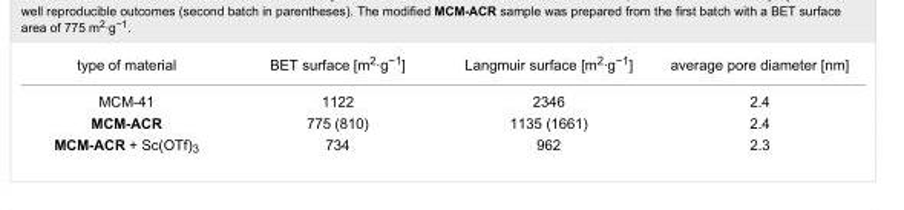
<table><tbody><tr><td>type of material</td><td>BET surface [m<sup>2</sup>·g<sup>−1</sup>]</td><td>Langmuir surface [m<sup>2</sup>·g<sup>−1</sup>]</td><td>average pore diameter [nm]</td></tr><tr><td>MCM-41</td><td>1122</td><td>2346</td><td>2.4</td></tr><tr><td>MCM-ACR</td><td>775 (810)</td><td>1135 (1661)</td><td>2.4</td></tr><tr><td>MCM-ACR + Sc(OTf)<sub>3</sub></td><td>734</td><td>962</td><td>2.3</td></tr></tbody></table>